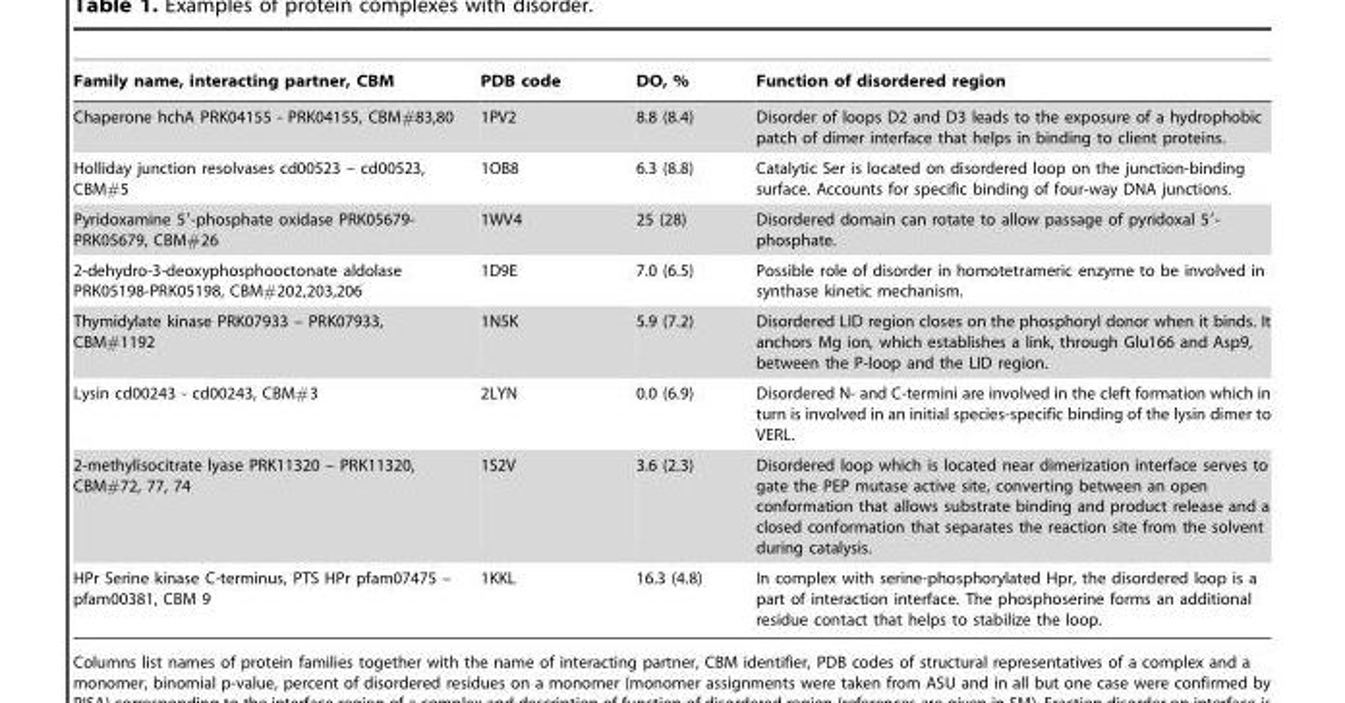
<table><thead><tr><td>Family name, interacting partner, CBM</td><td>PDB code</td><td>DO, %</td><td>Function of disordered region</td></tr></thead><tbody><tr><td>Chaperone hchA PRK04155 - PRK04155, CBM#83,80</td><td>1PV2</td><td>8.8 (8.4)</td><td>Disorder of loops D2 and D3 leads to the exposure of a hydrophobic patch of dimer interface that helps in binding to client proteins.</td></tr><tr><td>Holliday junction resolvases cd00523 – cd00523, CBM#5</td><td>1OB8</td><td>6.3 (8.8)</td><td>Catalytic Ser is located on disordered loop on the junction-binding surface. Accounts for specific binding of four-way DNA junctions.</td></tr><tr><td>Pyridoxamine 5′-phosphate oxidase PRK05679- PRK05679, CBM#26</td><td>1WV4</td><td>25 (28)</td><td>Disordered domain can rotate to allow passage of pyridoxal 5′- phosphate.</td></tr><tr><td>2-dehydro-3-deoxyphosphooctonate aldolase PRK05198-PRK05198, CBM#202,203,206</td><td>1D9E</td><td>7.0 (6.5)</td><td>Possible role of disorder in homotetrameric enzyme to be involved in synthase kinetic mechanism.</td></tr><tr><td>Thymidylate kinase PRK07933 – PRK07933, CBM#1192</td><td>1N5K</td><td>5.9 (7.2)</td><td>Disordered LID region closes on the phosphoryl donor when it binds. It anchors Mg ion, which establishes a link, through Glu166 and Asp9, between the P-loop and the LID region.</td></tr><tr><td>Lysin cd00243 - cd00243, CBM#3</td><td>2LYN</td><td>0.0 (6.9)</td><td>Disordered N- and C-termini are involved in the cleft formation which in turn is involved in an initial species-specific binding of the lysin dimer to VERL.</td></tr><tr><td>2-methylisocitrate lyase PRK11320 – PRK11320, CBM#72, 77, 74</td><td>1S2V</td><td>3.6 (2.3)</td><td>Disordered loop which is located near dimerization interface serves to gate the PEP mutase active site, converting between an open conformation that allows substrate binding and product release and a closed conformation that separates the reaction site from the solvent during catalysis.</td></tr><tr><td>HPr Serine kinase C-terminus, PTS HPr pfam07475 – pfam00381, CBM 9</td><td>1KKL</td><td>16.3 (4.8)</td><td>In complex with serine-phosphorylated Hpr, the disordered loop is a part of interaction interface. The phosphoserine forms an additional residue contact that helps to stabilize the loop.</td></tr></tbody></table>